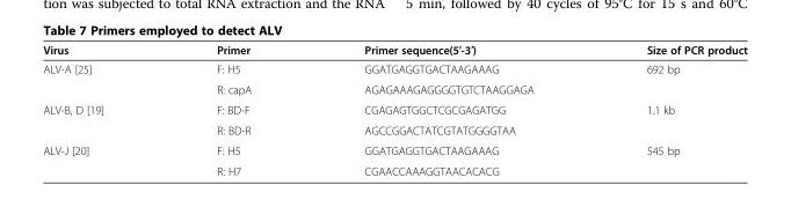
<table><thead><tr><td>Virus</td><td>Primer</td><td>Primer sequence(5′-3′)</td><td>Size of PCR product</td></tr></thead><tbody><tr><td rowspan="2">ALV-A [25]</td><td>F: H5</td><td>GGATGAGGTGACTAAGAAAG</td><td rowspan="2">692 bp</td></tr><tr><td>R: capA</td><td>AGAGAAAGAGGGGTGTCTAAGGAGA</td></tr><tr><td rowspan="2">ALV-B, D [19]</td><td>F: BD-F</td><td>CGAGAGTGGCTCGCGAGATGG</td><td rowspan="2">1.1 kb</td></tr><tr><td>R: BD-R</td><td>AGCCGGACTATCGTATGGGGTAA</td></tr><tr><td rowspan="2">ALV-J [20]</td><td>F: H5</td><td>GGATGAGGTGACTAAGAAAG</td><td rowspan="2">545 bp</td></tr><tr><td>R: H7</td><td>CGAACCAAAGGTAACACACG</td></tr></tbody></table>